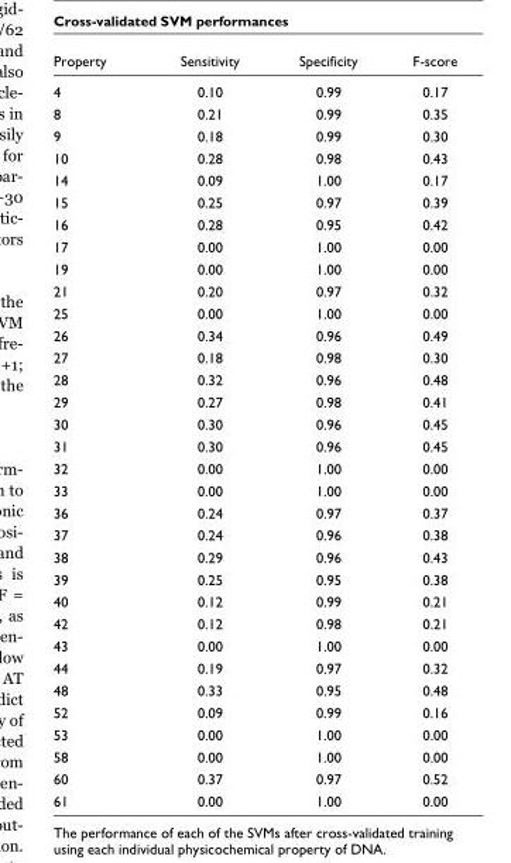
<table><thead><tr><td>Property</td><td>Sensitivity</td><td>Specificity</td><td>F-score</td></tr></thead><tbody><tr><td>4</td><td>0.10</td><td>0.99</td><td>0.17</td></tr><tr><td>8</td><td>0.21</td><td>0.99</td><td>0.35</td></tr><tr><td>9</td><td>0.18</td><td>0.99</td><td>0.30</td></tr><tr><td>10</td><td>0.28</td><td>0.98</td><td>0.43</td></tr><tr><td>14</td><td>0.09</td><td>1.00</td><td>0.17</td></tr><tr><td>15</td><td>0.25</td><td>0.97</td><td>0.39</td></tr><tr><td>16</td><td>0.28</td><td>0.95</td><td>0.42</td></tr><tr><td>17</td><td>0.00</td><td>1.00</td><td>0.00</td></tr><tr><td>19</td><td>0.00</td><td>1.00</td><td>0.00</td></tr><tr><td>21</td><td>0.20</td><td>0.97</td><td>0.32</td></tr><tr><td>25</td><td>0.00</td><td>1.00</td><td>0.00</td></tr><tr><td>26</td><td>0.34</td><td>0.96</td><td>0.49</td></tr><tr><td>27</td><td>0.18</td><td>0.98</td><td>0.30</td></tr><tr><td>28</td><td>0.32</td><td>0.96</td><td>0.48</td></tr><tr><td>29</td><td>0.27</td><td>0.98</td><td>0.41</td></tr><tr><td>30</td><td>0.30</td><td>0.96</td><td>0.45</td></tr><tr><td>31</td><td>0.30</td><td>0.96</td><td>0.45</td></tr><tr><td>32</td><td>0.00</td><td>1.00</td><td>0.00</td></tr><tr><td>33</td><td>0.00</td><td>1.00</td><td>0.00</td></tr><tr><td>36</td><td>0.24</td><td>0.97</td><td>0.37</td></tr><tr><td>37</td><td>0.24</td><td>0.96</td><td>0.38</td></tr><tr><td>38</td><td>0.29</td><td>0.96</td><td>0.43</td></tr><tr><td>39</td><td>0.25</td><td>0.95</td><td>0.38</td></tr><tr><td>40</td><td>0.12</td><td>0.99</td><td>0.21</td></tr><tr><td>42</td><td>0.12</td><td>0.98</td><td>0.21</td></tr><tr><td>43</td><td>0.00</td><td>1.00</td><td>0.00</td></tr><tr><td>44</td><td>0.19</td><td>0.97</td><td>0.32</td></tr><tr><td>48</td><td>0.33</td><td>0.95</td><td>0.48</td></tr><tr><td>52</td><td>0.09</td><td>0.99</td><td>0.16</td></tr><tr><td>53</td><td>0.00</td><td>1.00</td><td>0.00</td></tr><tr><td>58</td><td>0.00</td><td>1.00</td><td>0.00</td></tr><tr><td>60</td><td>0.37</td><td>0.97</td><td>0.52</td></tr><tr><td>61</td><td>0.00</td><td>1.00</td><td>0.00</td></tr></tbody></table>